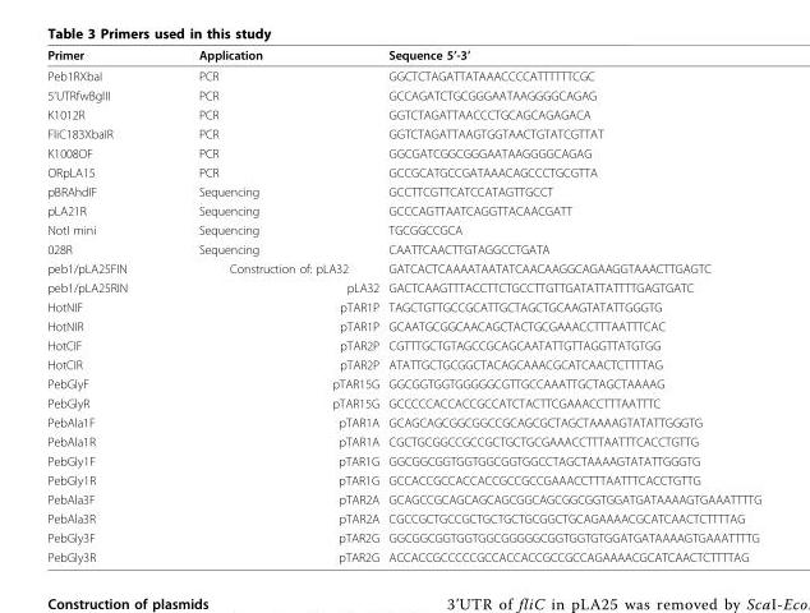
<table><thead><tr><td>Primer</td><td>Application</td><td>Sequence 5’-3’</td></tr></thead><tbody><tr><td>Peb1RXbaI</td><td>PCR</td><td>GGCTCTAGATTATAAACCCCATTTTTTCGC</td></tr><tr><td>5’UTRfwBglII</td><td>PCR</td><td>GCCAGATCTGCGGGAATAAGGGGCAGAG</td></tr><tr><td>K1012R</td><td>PCR</td><td>GGTCTAGATTAACCCTGCAGCAGAGACA</td></tr><tr><td>FliC183XbaIR</td><td>PCR</td><td>GGTCTAGATTAAGTGGTAACTGTATCGTTAT</td></tr><tr><td>K1008OF</td><td>PCR</td><td>GGCGATCGGCGGGAATAAGGGGCAGAG</td></tr><tr><td>ORpLA15</td><td>PCR</td><td>GCCGCATGCCGATAAACAGCCCTGCGTTA</td></tr><tr><td>pBRAhdIF</td><td>Sequencing</td><td>GCCTTCGTTCATCCATAGTTGCCT</td></tr><tr><td>pLA21R</td><td>Sequencing</td><td>GCCCAGTTAATCAGGTTACAACGATT</td></tr><tr><td>NotI mini</td><td>Sequencing</td><td>TGCGGCCGCA</td></tr><tr><td>028R</td><td>Sequencing</td><td>CAATTCAACTTGTAGGCCTGATA</td></tr><tr><td>peb1/pLA25FIN</td><td>Construction of: pLA32</td><td>GATCACTCAAAATAATATCAACAAGGCAGAAGGTAAACTTGAGTC</td></tr><tr><td>peb1/pLA25RIN</td><td>pLA32</td><td>GACTCAAGTTTACCTTCTGCCTTGTTGATATTATTTTGAGTGATC</td></tr><tr><td>HotNIF</td><td>pTAR1P</td><td>TAGCTGTTGCCGCATTGCTAGCTGCAAGTATATTGGGTG</td></tr><tr><td>HotNIR</td><td>pTAR1P</td><td>GCAATGCGGCAACAGCTACTGCGAAACCTTTAATTTCAC</td></tr><tr><td>HotCIF</td><td>pTAR2P</td><td>CGTTTGCTGTAGCCGCAGCAATATTGTTAGGTTATGTGG</td></tr><tr><td>HotCIR</td><td>pTAR2P</td><td>ATATTGCTGCGGCTACAGCAAACGCATCAACTCTTTTAG</td></tr><tr><td>PebGlyF</td><td>pTAR15G</td><td>GGCGGTGGTGGGGGCGTTGCCAAATTGCTAGCTAAAAG</td></tr><tr><td>PebGlyR</td><td>pTAR15G</td><td>GCCCCCACCACCGCCATCTACTTCGAAACCTTTAATTTC</td></tr><tr><td>PebAla1F</td><td>pTAR1A</td><td>GCAGCAGCGGCGGCCGCAGCGCTAGCTAAAAGTATATTGGGTG</td></tr><tr><td>PebAla1R</td><td>pTAR1A</td><td>CGCTGCGGCCGCCGCTGCTGCGAAACCTTTAATTTCACCTGTTG</td></tr><tr><td>PebGly1F</td><td>pTAR1G</td><td>GGCGGCGGTGGTGGCGGTGGCCTAGCTAAAAGTATATTGGGTG</td></tr><tr><td>PebGly1R</td><td>pTAR1G</td><td>GCCACCGCCACCACCGCCGCCGAAACCTTTAATTTCACCTGTTG</td></tr><tr><td>PebAla3F</td><td>pTAR2A</td><td>GCAGCCGCAGCAGCAGCGGCAGCGGCGGTGGATGATAAAAGTGAAATTTTG</td></tr><tr><td>PebAla3R</td><td>pTAR2A</td><td>CGCCGCTGCCGCTGCTGCTGCGGCTGCAGAAAACGCATCAACTCTTTTAG</td></tr><tr><td>PebGly3F</td><td>pTAR2G</td><td>GGCGGCGGTGGTGGCGGGGGCGGTGGTGTGGATGATAAAAGTGAAATTTTG</td></tr><tr><td>PebGly3R</td><td>pTAR2G</td><td>ACCACCGCCCCCGCCACCACCGCCGCCAGAAAACGCATCAACTCTTTTAG</td></tr></tbody></table>